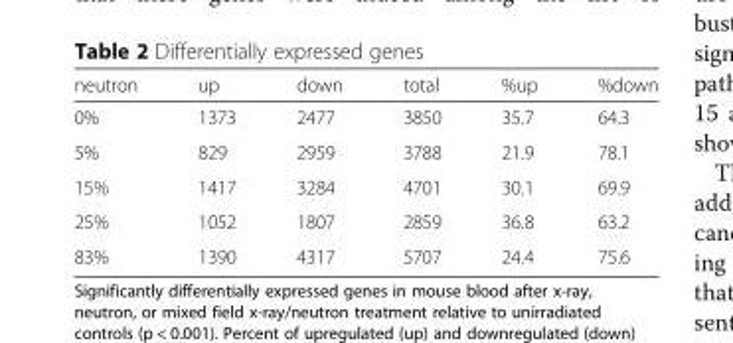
<table><thead><tr><td>neutron</td><td>up</td><td>down</td><td>total</td><td>%up</td><td>%down</td></tr></thead><tbody><tr><td>0%</td><td>1373</td><td>2477</td><td>3850</td><td>35.7</td><td>64.3</td></tr><tr><td>5%</td><td>829</td><td>2959</td><td>3788</td><td>21.9</td><td>78.1</td></tr><tr><td>15%</td><td>1417</td><td>3284</td><td>4701</td><td>30.1</td><td>69.9</td></tr><tr><td>25%</td><td>1052</td><td>1807</td><td>2859</td><td>36.8</td><td>63.2</td></tr><tr><td>83%</td><td>1390</td><td>4317</td><td>5707</td><td>24.4</td><td>75.6</td></tr></tbody></table>